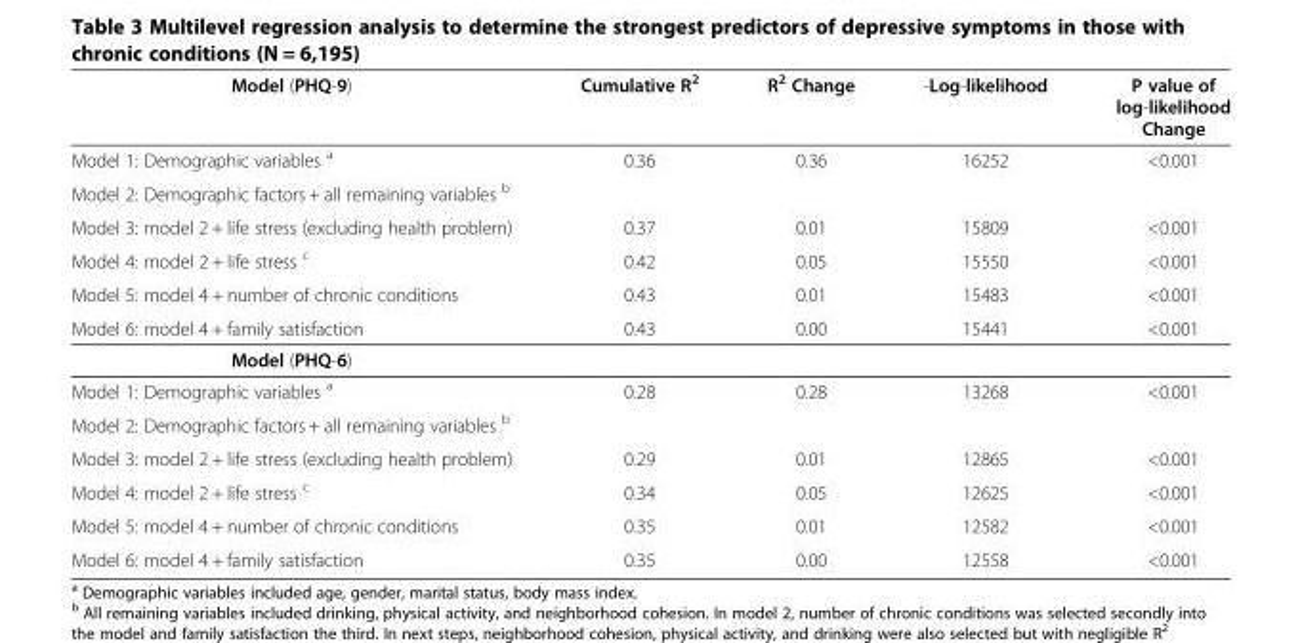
<table><thead><tr><td>Model (PHQ-9)</td><td>Cumulative R<sup>2</sup></td><td>R<sup>2</sup> Change</td><td>-Log-likelihood</td><td>P value of log-likelihood Change</td></tr></thead><tbody><tr><td>Model 1: Demographic variables <sup>a</sup></td><td>0.36</td><td>0.36</td><td>16252</td><td>&lt;0.001</td></tr><tr><td colspan="5">Model 2: Demographic factors + all remaining variables <sup>b</sup></td></tr><tr><td>Model 3: model 2 + life stress (excluding health problem)</td><td>0.37</td><td>0.01</td><td>15809</td><td>&lt;0.001</td></tr><tr><td>Model 4: model 2 + life stress <sup>c</sup></td><td>0.42</td><td>0.05</td><td>15550</td><td>&lt;0.001</td></tr><tr><td>Model 5: model 4 + number of chronic conditions</td><td>0.43</td><td>0.01</td><td>15483</td><td>&lt;0.001</td></tr><tr><td>Model 6: model 4 + family satisfaction</td><td>0.43</td><td>0.00</td><td>15441</td><td>&lt;0.001</td></tr><tr><td colspan="5">Model (PHQ-6)</td></tr><tr><td>Model 1: Demographic variables <sup>a</sup></td><td>0.28</td><td>0.28</td><td>13268</td><td>&lt;0.001</td></tr><tr><td colspan="5">Model 2: Demographic factors + all remaining variables <sup>b</sup></td></tr><tr><td>Model 3: model 2 + life stress (excluding health problem)</td><td>0.29</td><td>0.01</td><td>12865</td><td>&lt;0.001</td></tr><tr><td>Model 4: model 2 + life stress <sup>c</sup></td><td>0.34</td><td>0.05</td><td>12625</td><td>&lt;0.001</td></tr><tr><td>Model 5: model 4 + number of chronic conditions</td><td>0.35</td><td>0.01</td><td>12582</td><td>&lt;0.001</td></tr><tr><td>Model 6: model 4 + family satisfaction</td><td>0.35</td><td>0.00</td><td>12558</td><td>&lt;0.001</td></tr></tbody></table>